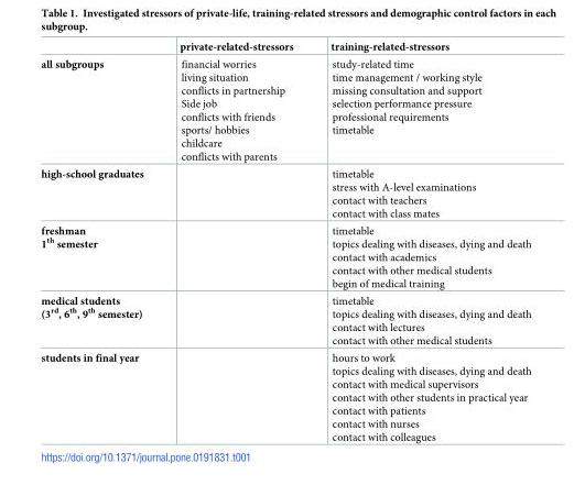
<table><thead><tr><td></td><td>private-related-stressors</td><td>training-related-stressors</td></tr></thead><tbody><tr><td>all subgroups</td><td>financial worries living situation conflicts in partnership Side job conflicts with friends sports/ hobbies childcare conflicts with parents</td><td>study-related time time management / working style missing consultation and support selection performance pressure professional requirements timetable</td></tr><tr><td>high-school graduates</td><td></td><td>timetable stress with A-level examinations contact with teachers contact with class mates</td></tr><tr><td>freshman 1<sup>th</sup> semester</td><td></td><td>timetable topics dealing with diseases, dying and death contact with academics contact with other medical students begin of medical training</td></tr><tr><td>medical students (3<sup>rd</sup>, 6<sup>th</sup>, 9<sup>th</sup> semester)</td><td></td><td>timetable topics dealing with diseases, dying and death contact with lectures contact with other medical students</td></tr><tr><td>students in final year</td><td></td><td>hours to work topics dealing with diseases, dying and death contact with medical supervisors contact with other students in practical year contact with patients contact with nurses contact with colleagues</td></tr></tbody></table>